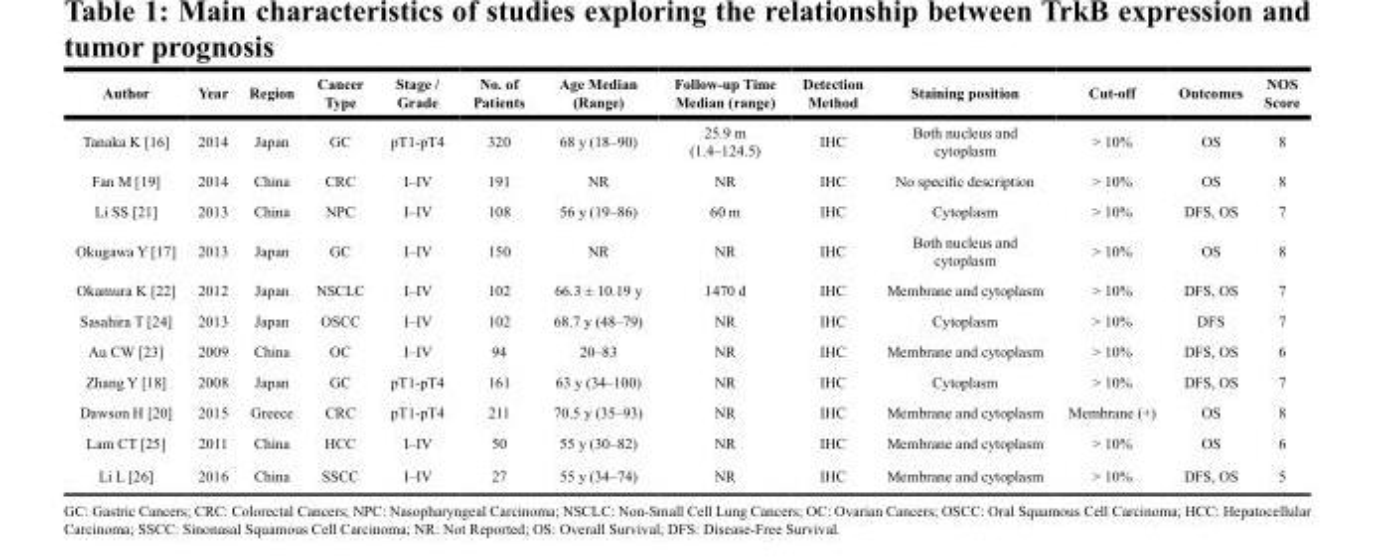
<table><thead><tr><td>Author</td><td>Year</td><td>Region</td><td>Cancer Type</td><td>Stage / Grade</td><td>No. of Patients</td><td>Age Median (Range)</td><td>Follow-up Time Median (range)</td><td>Detection Method</td><td>Staining position</td><td>Cut-off</td><td>Outcomes</td><td>NOS Score</td></tr></thead><tbody><tr><td>Tanaka K [16]</td><td>2014</td><td>Japan</td><td>GC</td><td>pT1-pT4</td><td>320</td><td>68 y (18–90)</td><td>25.9 m (1.4–124.5)</td><td>IHC</td><td>Both nucleus and cytoplasm</td><td>&gt; 10%</td><td>OS</td><td>8</td></tr><tr><td>Fan M [19]</td><td>2014</td><td>China</td><td>CRC</td><td>I–IV</td><td>191</td><td>NR</td><td>NR</td><td>IHC</td><td>No specific description</td><td>&gt; 10%</td><td>OS</td><td>8</td></tr><tr><td>Li SS [21]</td><td>2013</td><td>China</td><td>NPC</td><td>I–IV</td><td>108</td><td>56 y (19–86)</td><td>60 m</td><td>IHC</td><td>Cytoplasm</td><td>&gt; 10%</td><td>DFS, OS</td><td>7</td></tr><tr><td>Okugawa Y [17]</td><td>2013</td><td>Japan</td><td>GC</td><td>I–IV</td><td>150</td><td>NR</td><td>NR</td><td>IHC</td><td>Both nucleus and cytoplasm</td><td>&gt; 10%</td><td>OS</td><td>8</td></tr><tr><td>Okamura K [22]</td><td>2012</td><td>Japan</td><td>NSCLC</td><td>I–IV</td><td>102</td><td>66.3 ± 10.19 y</td><td>1470 d</td><td>IHC</td><td>Membrane and cytoplasm</td><td>&gt; 10%</td><td>DFS, OS</td><td>7</td></tr><tr><td>Sasahira T [24]</td><td>2013</td><td>Japan</td><td>OSCC</td><td>I–IV</td><td>102</td><td>68.7 y (48–79)</td><td>NR</td><td>IHC</td><td>Cytoplasm</td><td>&gt; 10%</td><td>DFS</td><td>7</td></tr><tr><td>Au CW [23]</td><td>2009</td><td>China</td><td>OC</td><td>I–IV</td><td>94</td><td>20–83</td><td>NR</td><td>IHC</td><td>Membrane and cytoplasm</td><td>&gt; 10%</td><td>DFS, OS</td><td>6</td></tr><tr><td>Zhang Y [18]</td><td>2008</td><td>Japan</td><td>GC</td><td>pT1-pT4</td><td>161</td><td>63 y (34–100)</td><td>NR</td><td>IHC</td><td>Cytoplasm</td><td>&gt; 10%</td><td>DFS, OS</td><td>7</td></tr><tr><td>Dawson H [20]</td><td>2015</td><td>Greece</td><td>CRC</td><td>pT1-pT4</td><td>211</td><td>70.5 y (35–93)</td><td>NR</td><td>IHC</td><td>Membrane and cytoplasm</td><td>Membrane (+)</td><td>OS</td><td>8</td></tr><tr><td>Lam CT [25]</td><td>2011</td><td>China</td><td>HCC</td><td>I–IV</td><td>50</td><td>55 y (30–82)</td><td>NR</td><td>IHC</td><td>Membrane and cytoplasm</td><td>&gt; 10%</td><td>OS</td><td>6</td></tr><tr><td>Li L [26]</td><td>2016</td><td>China</td><td>SSCC</td><td>I–IV</td><td>27</td><td>55 y (34–74)</td><td>NR</td><td>IHC</td><td>Membrane and cytoplasm</td><td>&gt; 10%</td><td>DFS, OS</td><td>5</td></tr></tbody></table>